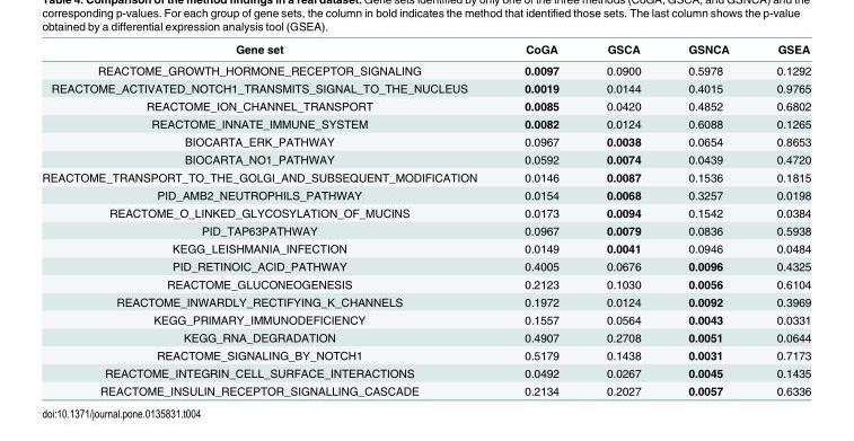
<table><thead><tr><td>Gene set</td><td>CoGA</td><td>GSCA</td><td>GSNCA</td><td>GSEA</td></tr></thead><tbody><tr><td>REACTOME_GROWTH_HORMONE_RECEPTOR_SIGNALING</td><td>0.0097</td><td>0.0900</td><td>0.5978</td><td>0.1292</td></tr><tr><td>REACTOME_ACTIVATED_NOTCH1_TRANSMITS_SIGNAL_TO_THE_NUCLEUS</td><td>0.0019</td><td>0.0144</td><td>0.4015</td><td>0.9765</td></tr><tr><td>REACTOME_ION_CHANNEL_TRANSPORT</td><td>0.0085</td><td>0.0420</td><td>0.4852</td><td>0.6802</td></tr><tr><td>REACTOME_INNATE_IMMUNE_SYSTEM</td><td>0.0082</td><td>0.0124</td><td>0.6088</td><td>0.1265</td></tr><tr><td>BIOCARTA_ERK_PATHWAY</td><td>0.0967</td><td>0.0038</td><td>0.0654</td><td>0.8653</td></tr><tr><td>BIOCARTA_NO1_PATHWAY</td><td>0.0592</td><td>0.0074</td><td>0.0439</td><td>0.4720</td></tr><tr><td>REACTOME_TRANSPORT_TO_THE_GOLGI_AND_SUBSEQUENT_MODIFICATION</td><td>0.0146</td><td>0.0087</td><td>0.1536</td><td>0.1815</td></tr><tr><td>PID_AMB2_NEUTROPHILS_PATHWAY</td><td>0.0154</td><td>0.0068</td><td>0.3257</td><td>0.0198</td></tr><tr><td>REACTOME_O_LINKED_GLYCOSYLATION_OF_MUCINS</td><td>0.0173</td><td>0.0094</td><td>0.1542</td><td>0.0384</td></tr><tr><td>PID_TAP63PATHWAY</td><td>0.0967</td><td>0.0079</td><td>0.0836</td><td>0.5938</td></tr><tr><td>KEGG_LEISHMANIA_INFECTION</td><td>0.0149</td><td>0.0041</td><td>0.0946</td><td>0.0484</td></tr><tr><td>PID_RETINOIC_ACID_PATHWAY</td><td>0.4005</td><td>0.0676</td><td>0.0096</td><td>0.4325</td></tr><tr><td>REACTOME_GLUCONEOGENESIS</td><td>0.2123</td><td>0.1030</td><td>0.0056</td><td>0.6104</td></tr><tr><td>REACTOME_INWARDLY_RECTIFYING_K_CHANNELS</td><td>0.1972</td><td>0.0124</td><td>0.0092</td><td>0.3969</td></tr><tr><td>KEGG_PRIMARY_IMMUNODEFICIENCY</td><td>0.1557</td><td>0.0564</td><td>0.0043</td><td>0.0331</td></tr><tr><td>KEGG_RNA_DEGRADATION</td><td>0.4907</td><td>0.2708</td><td>0.0051</td><td>0.0644</td></tr><tr><td>REACTOME_SIGNALING_BY_NOTCH1</td><td>0.5179</td><td>0.1438</td><td>0.0031</td><td>0.7173</td></tr><tr><td>REACTOME_INTEGRIN_CELL_SURFACE_INTERACTIONS</td><td>0.0492</td><td>0.0267</td><td>0.0045</td><td>0.1435</td></tr><tr><td>REACTOME_INSULIN_RECEPTOR_SIGNALLING_CASCADE</td><td>0.2134</td><td>0.2027</td><td>0.0057</td><td>0.6336</td></tr></tbody></table>